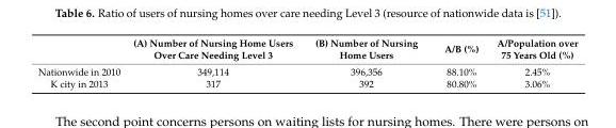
<table><thead><tr><td></td><td>(A) Number of Nursing Home Users Over Care Needing Level 3</td><td>(B) Number of Nursing Home Users</td><td>A/B (%)</td><td>A/Population over 75 Years Old (%)</td></tr></thead><tbody><tr><td>Nationwide in 2010</td><td>349,114</td><td>396,356</td><td>88.10%</td><td>2.45%</td></tr><tr><td>K city in 2013</td><td>317</td><td>392</td><td>80.80%</td><td>3.06%</td></tr></tbody></table>